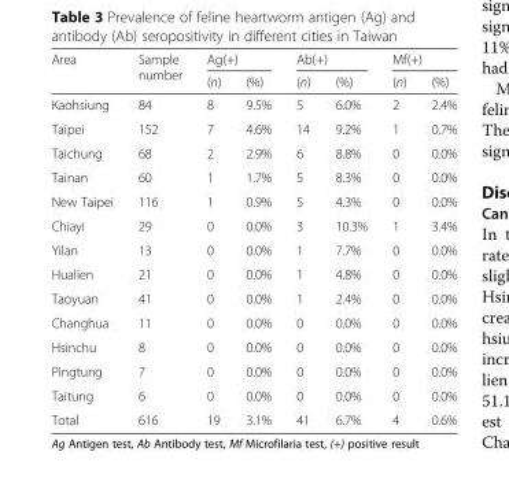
<table><thead><tr><td rowspan="2">Area</td><td rowspan="2">Sample number</td><td colspan="2">Ag(+)</td><td colspan="2">Ab(+)</td><td colspan="2">Mf(+)</td></tr><tr><td>(n)</td><td>(%)</td><td>(n)</td><td>(%)</td><td>(n)</td><td>(%)</td></tr></thead><tbody><tr><td>Kaohsiung</td><td>84</td><td>8</td><td>9.5%</td><td>5</td><td>6.0%</td><td>2</td><td>2.4%</td></tr><tr><td>Taipei</td><td>152</td><td>7</td><td>4.6%</td><td>14</td><td>9.2%</td><td>1</td><td>0.7%</td></tr><tr><td>Taichung</td><td>68</td><td>2</td><td>2.9%</td><td>6</td><td>8.8%</td><td>0</td><td>0.0%</td></tr><tr><td>Tainan</td><td>60</td><td>1</td><td>1.7%</td><td>5</td><td>8.3%</td><td>0</td><td>0.0%</td></tr><tr><td>New Taipei</td><td>116</td><td>1</td><td>0.9%</td><td>5</td><td>4.3%</td><td>0</td><td>0.0%</td></tr><tr><td>Chiayi</td><td>29</td><td>0</td><td>0.0%</td><td>3</td><td>10.3%</td><td>1</td><td>3.4%</td></tr><tr><td>Yilan</td><td>13</td><td>0</td><td>0.0%</td><td>1</td><td>7.7%</td><td>0</td><td>0.0%</td></tr><tr><td>Hualien</td><td>21</td><td>0</td><td>0.0%</td><td>1</td><td>4.8%</td><td>0</td><td>0.0%</td></tr><tr><td>Taoyuan</td><td>41</td><td>0</td><td>0.0%</td><td>1</td><td>2.4%</td><td>0</td><td>0.0%</td></tr><tr><td>Changhua</td><td>11</td><td>0</td><td>0.0%</td><td>0</td><td>0.0%</td><td>0</td><td>0.0%</td></tr><tr><td>Hsinchu</td><td>8</td><td>0</td><td>0.0%</td><td>0</td><td>0.0%</td><td>0</td><td>0.0%</td></tr><tr><td>Pingtung</td><td>7</td><td>0</td><td>0.0%</td><td>0</td><td>0.0%</td><td>0</td><td>0.0%</td></tr><tr><td>Taitung</td><td>6</td><td>0</td><td>0.0%</td><td>0</td><td>0.0%</td><td>0</td><td>0.0%</td></tr><tr><td>Total</td><td>616</td><td>19</td><td>3.1%</td><td>41</td><td>6.7%</td><td>4</td><td>0.6%</td></tr></tbody></table>